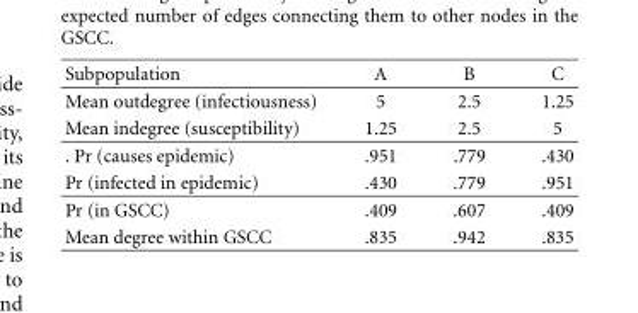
<table><thead><tr><td>Subpopulation</td><td>A</td><td>B</td><td>C</td></tr></thead><tbody><tr><td>Mean outdegree (infectiousness)</td><td>5</td><td>2.5</td><td>1.25</td></tr><tr><td>Mean indegree (susceptibility)</td><td>1.25</td><td>2.5</td><td>5</td></tr><tr><td>. Pr (causes epidemic)</td><td>.951</td><td>.779</td><td>.430</td></tr><tr><td>Pr (infected in epidemic)</td><td>.430</td><td>.779</td><td>.951</td></tr><tr><td>Pr (in GSCC)</td><td>.409</td><td>.607</td><td>.409</td></tr><tr><td>Mean degree within GSCC</td><td>.835</td><td>.942</td><td>.835</td></tr></tbody></table>